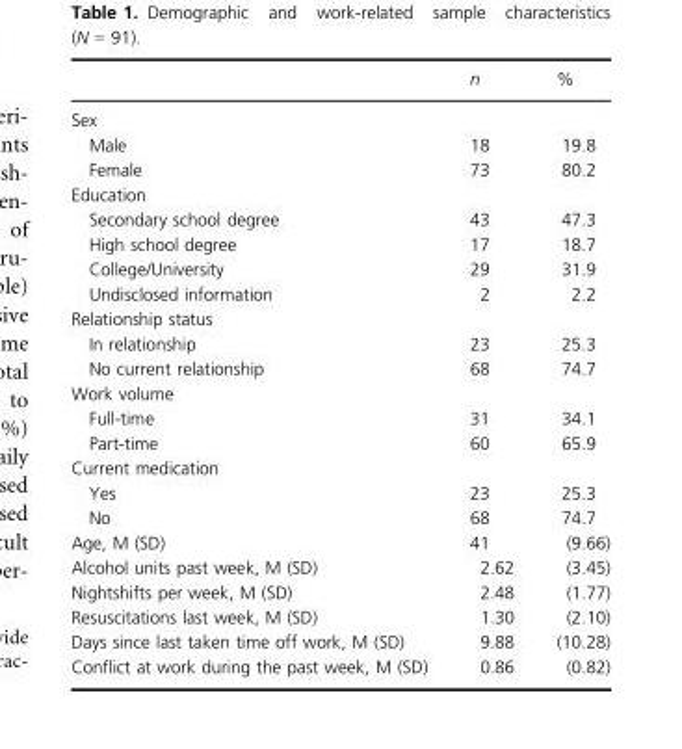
<table><thead><tr><td></td><td>n</td><td>%</td></tr></thead><tbody><tr><td colspan="3">Sex</td></tr><tr><td>Male</td><td>18</td><td>19.8</td></tr><tr><td>Female</td><td>73</td><td>80.2</td></tr><tr><td colspan="3">Education</td></tr><tr><td>Secondary school degree</td><td>43</td><td>47.3</td></tr><tr><td>High school degree</td><td>17</td><td>18.7</td></tr><tr><td>College/University</td><td>29</td><td>31.9</td></tr><tr><td>Undisclosed information</td><td>2</td><td>2.2</td></tr><tr><td colspan="3">Relationship status</td></tr><tr><td>In relationship</td><td>23</td><td>25.3</td></tr><tr><td>No current relationship</td><td>68</td><td>74.7</td></tr><tr><td colspan="3">Work volume</td></tr><tr><td>Full-time</td><td>31</td><td>34.1</td></tr><tr><td>Part-time</td><td>60</td><td>65.9</td></tr><tr><td colspan="3">Current medication</td></tr><tr><td>Yes</td><td>23</td><td>25.3</td></tr><tr><td>No</td><td>68</td><td>74.7</td></tr><tr><td>Age, M (SD)</td><td>41</td><td>(9.66)</td></tr><tr><td>Alcohol units past week, M (SD)</td><td>2.62</td><td>(3.45)</td></tr><tr><td>Nightshifts per week, M (SD)</td><td>2.48</td><td>(1.77)</td></tr><tr><td>Resuscitations last week, M (SD)</td><td>1.30</td><td>(2.10)</td></tr><tr><td>Days since last taken time off work, M (SD)</td><td>9.88</td><td>(10.28)</td></tr><tr><td>Conflict at work during the past week, M (SD)</td><td>0.86</td><td>(0.82)</td></tr></tbody></table>